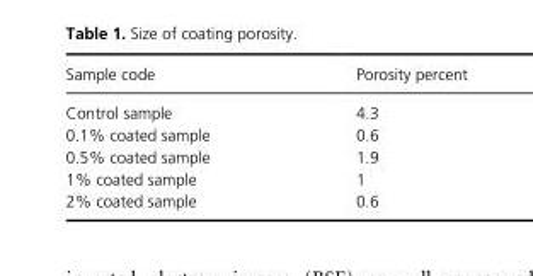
<table><thead><tr><td>Sample code</td><td>Porosity percent</td></tr></thead><tbody><tr><td>Control sample</td><td>4.3</td></tr><tr><td>0.1% coated sample</td><td>0.6</td></tr><tr><td>0.5% coated sample</td><td>1.9</td></tr><tr><td>1% coated sample</td><td>1</td></tr><tr><td>2% coated sample</td><td>0.6</td></tr></tbody></table>